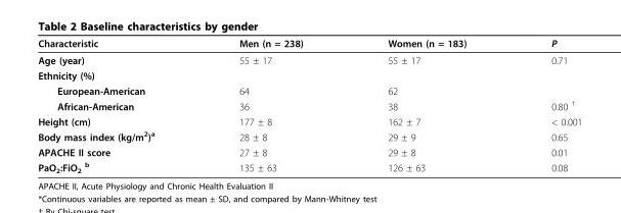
<table><thead><tr><td>Characteristic</td><td>Men (n = 238)</td><td>Women (n = 183)</td><td>P</td></tr></thead><tbody><tr><td>Age (year)</td><td>55 ± 17</td><td>55 ± 17</td><td>0.71</td></tr><tr><td colspan="4">Ethnicity (%)</td></tr><tr><td>European-American</td><td>64</td><td>62</td><td></td></tr><tr><td>African-American</td><td>36</td><td>38</td><td>0.80 <sup>†</sup></td></tr><tr><td>Height (cm)</td><td>177 ± 8</td><td>162 ± 7</td><td>&lt; 0.001</td></tr><tr><td>Body mass index (kg/m<sup>2</sup>)<sup>a</sup></td><td>28 ± 8</td><td>29 ± 9</td><td>0.65</td></tr><tr><td>APACHE II score</td><td>27 ± 8</td><td>29 ± 8</td><td>0.01</td></tr><tr><td>PaO<sub>2</sub>:FiO<sub>2</sub> <sup>b</sup></td><td>135 ± 63</td><td>126 ± 63</td><td>0.08</td></tr></tbody></table>